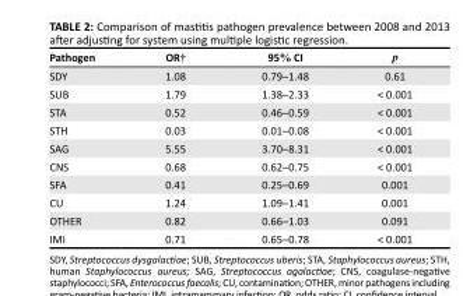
<table><thead><tr><td>Pathogen</td><td>OR†</td><td>95% CI</td><td>p</td></tr></thead><tbody><tr><td>SDY</td><td>1.08</td><td>0.79–1.48</td><td>0.61</td></tr><tr><td>SUB</td><td>1.79</td><td>1.38–2.33</td><td>&lt; 0.001</td></tr><tr><td>STA</td><td>0.52</td><td>0.46–0.59</td><td>&lt; 0.001</td></tr><tr><td>STH</td><td>0.03</td><td>0.01–0.08</td><td>&lt; 0.001</td></tr><tr><td>SAG</td><td>5.55</td><td>3.70–8.31</td><td>&lt; 0.001</td></tr><tr><td>CNS</td><td>0.68</td><td>0.62–0.75</td><td>&lt; 0.001</td></tr><tr><td>SFA</td><td>0.41</td><td>0.25–0.69</td><td>0.001</td></tr><tr><td>CU</td><td>1.24</td><td>1.09–1.41</td><td>0.001</td></tr><tr><td>OTHER</td><td>0.82</td><td>0.66–1.03</td><td>0.091</td></tr><tr><td>IMI</td><td>0.71</td><td>0.65–0.78</td><td>&lt; 0.001</td></tr></tbody></table>